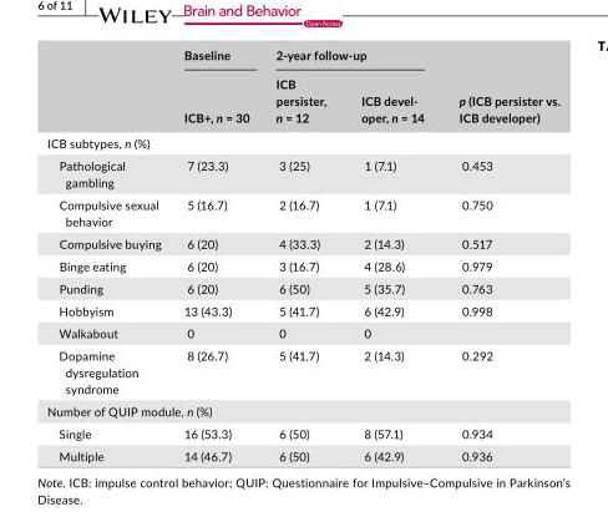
<table><thead><tr><td rowspan="2"></td><td rowspan="2">Baseline ICB+, n = 30</td><td colspan="2">2- year follow- up</td><td rowspan="2">p (ICB persister vs. ICB developer)</td></tr><tr><td>ICB persister, n = 12</td><td>ICB devel- oper, n = 14</td></tr></thead><tbody><tr><td colspan="5">ICB subtypes, n (%)</td></tr><tr><td>Pathological gambling</td><td>7 (23.3)</td><td>3 (25)</td><td>1 (7.1)</td><td>0.453</td></tr><tr><td>Compulsive sexual behavior</td><td>5 (16.7)</td><td>2 (16.7)</td><td>1 (7.1)</td><td>0.750</td></tr><tr><td>Compulsive buying</td><td>6 (20)</td><td>4 (33.3)</td><td>2 (14.3)</td><td>0.517</td></tr><tr><td>Binge eating</td><td>6 (20)</td><td>3 (16.7)</td><td>4 (28.6)</td><td>0.979</td></tr><tr><td>Punding</td><td>6 (20)</td><td>6 (50)</td><td>5 (35.7)</td><td>0.763</td></tr><tr><td>Hobbyism</td><td>13 (43.3)</td><td>5 (41.7)</td><td>6 (42.9)</td><td>0.998</td></tr><tr><td>Walkabout</td><td>0</td><td>0</td><td>0</td><td></td></tr><tr><td>Dopamine dysregulation syndrome</td><td>8 (26.7)</td><td>5 (41.7)</td><td>2 (14.3)</td><td>0.292</td></tr><tr><td colspan="5">Number of QUIP module, n (%)</td></tr><tr><td>Single</td><td>16 (53.3)</td><td>6 (50)</td><td>8 (57.1)</td><td>0.934</td></tr><tr><td>Multiple</td><td>14 (46.7)</td><td>6 (50)</td><td>6 (42.9)</td><td>0.936</td></tr></tbody></table>